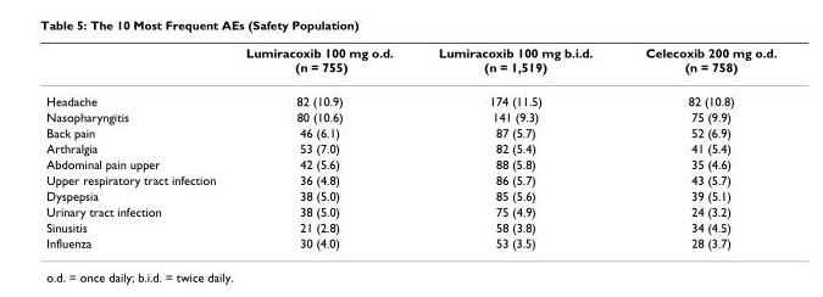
<table><thead><tr><td></td><td>Lumiracoxib 100 mg o.d. (n = 755)</td><td>Lumiracoxib 100 mg b.i.d. (n = 1,519)</td><td>Celecoxib 200 mg o.d. (n = 758)</td></tr></thead><tbody><tr><td>Headache</td><td>82 (10.9)</td><td>174 (11.5)</td><td>82 (10.8)</td></tr><tr><td>Nasopharyngitis</td><td>80 (10.6)</td><td>141 (9.3)</td><td>75 (9.9)</td></tr><tr><td>Back pain</td><td>46 (6.1)</td><td>87 (5.7)</td><td>52 (6.9)</td></tr><tr><td>Arthralgia</td><td>53 (7.0)</td><td>82 (5.4)</td><td>41 (5.4)</td></tr><tr><td>Abdominal pain upper</td><td>42 (5.6)</td><td>88 (5.8)</td><td>35 (4.6)</td></tr><tr><td>Upper respiratory tract infection</td><td>36 (4.8)</td><td>86 (5.7)</td><td>43 (5.7)</td></tr><tr><td>Dyspepsia</td><td>38 (5.0)</td><td>85 (5.6)</td><td>39 (5.1)</td></tr><tr><td>Urinary tract infection</td><td>38 (5.0)</td><td>75 (4.9)</td><td>24 (3.2)</td></tr><tr><td>Sinusitis</td><td>21 (2.8)</td><td>58 (3.8)</td><td>34 (4.5)</td></tr><tr><td>Influenza</td><td>30 (4.0)</td><td>53 (3.5)</td><td>28 (3.7)</td></tr></tbody></table>